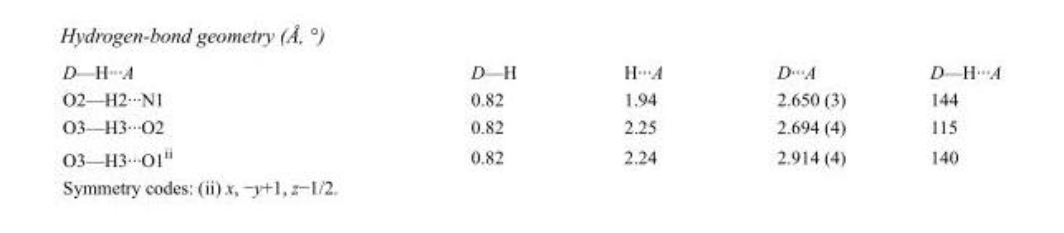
<table><tbody><tr><td>D—H···A</td><td>D—H</td><td>H···A</td><td>D···A</td><td>D—H···A</td></tr><tr><td>O2—H2···N1</td><td>0.82</td><td>1.94</td><td>2.650 (3)</td><td>144</td></tr><tr><td>O3—H3···O2</td><td>0.82</td><td>2.25</td><td>2.694 (4)</td><td>115</td></tr><tr><td>O3—H3···O1<sup>ii</sup></td><td>0.82</td><td>2.24</td><td>2.914 (4)</td><td>140</td></tr></tbody></table>